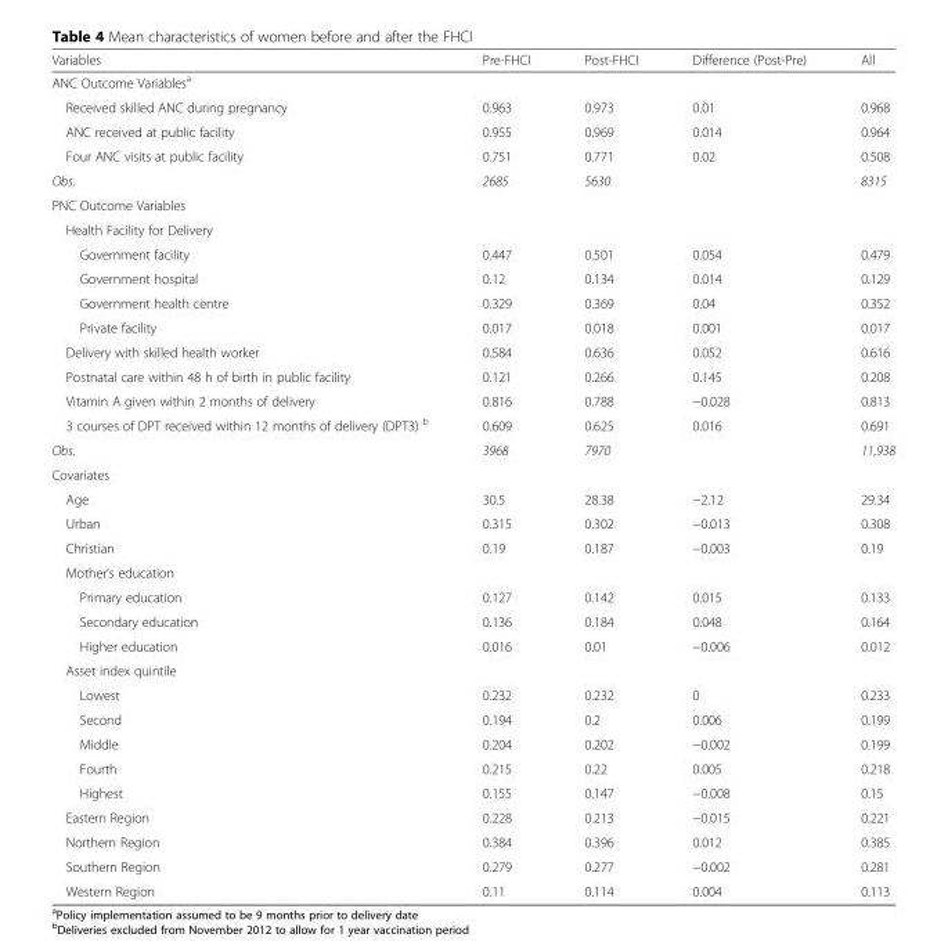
<table><thead><tr><td>Variables</td><td>Pre-FHCI</td><td>Post-FHCI</td><td>Difference (Post-Pre)</td><td>All</td></tr></thead><tbody><tr><td colspan="5">ANC Outcome Variables<sup>a</sup></td></tr><tr><td>Received skilled ANC during pregnancy</td><td>0.963</td><td>0.973</td><td>0.01</td><td>0.968</td></tr><tr><td>ANC received at public facility</td><td>0.955</td><td>0.969</td><td>0.014</td><td>0.964</td></tr><tr><td>Four ANC visits at public facility</td><td>0.751</td><td>0.771</td><td>0.02</td><td>0.508</td></tr><tr><td>Obs.</td><td>2685</td><td>5630</td><td></td><td>8315</td></tr><tr><td colspan="5">PNC Outcome Variables</td></tr><tr><td colspan="5">Health Facility for Delivery</td></tr><tr><td>Government facility</td><td>0.447</td><td>0.501</td><td>0.054</td><td>0.479</td></tr><tr><td>Government hospital</td><td>0.12</td><td>0.134</td><td>0.014</td><td>0.129</td></tr><tr><td>Government health centre</td><td>0.329</td><td>0.369</td><td>0.04</td><td>0.352</td></tr><tr><td>Private facility</td><td>0.017</td><td>0.018</td><td>0.001</td><td>0.017</td></tr><tr><td>Delivery with skilled health worker</td><td>0.584</td><td>0.636</td><td>0.052</td><td>0.616</td></tr><tr><td>Postnatal care within 48 h of birth in public facility</td><td>0.121</td><td>0.266</td><td>0.145</td><td>0.208</td></tr><tr><td>Vitamin A given within 2 months of delivery</td><td>0.816</td><td>0.788</td><td>−0.028</td><td>0.813</td></tr><tr><td>3 courses of DPT received within 12 months of delivery (DPT3) <sup>b</sup></td><td>0.609</td><td>0.625</td><td>0.016</td><td>0.691</td></tr><tr><td>Obs.</td><td>3968</td><td>7970</td><td></td><td>11,938</td></tr><tr><td colspan="5">Covariates</td></tr><tr><td>Age</td><td>30.5</td><td>28.38</td><td>−2.12</td><td>29.34</td></tr><tr><td>Urban</td><td>0.315</td><td>0.302</td><td>−0.013</td><td>0.308</td></tr><tr><td>Christian</td><td>0.19</td><td>0.187</td><td>−0.003</td><td>0.19</td></tr><tr><td colspan="5">Mother’s education</td></tr><tr><td>Primary education</td><td>0.127</td><td>0.142</td><td>0.015</td><td>0.133</td></tr><tr><td>Secondary education</td><td>0.136</td><td>0.184</td><td>0.048</td><td>0.164</td></tr><tr><td>Higher education</td><td>0.016</td><td>0.01</td><td>−0.006</td><td>0.012</td></tr><tr><td colspan="5">Asset index quintile</td></tr><tr><td>Lowest</td><td>0.232</td><td>0.232</td><td>0</td><td>0.233</td></tr><tr><td>Second</td><td>0.194</td><td>0.2</td><td>0.006</td><td>0.199</td></tr><tr><td>Middle</td><td>0.204</td><td>0.202</td><td>−0.002</td><td>0.199</td></tr><tr><td>Fourth</td><td>0.215</td><td>0.22</td><td>0.005</td><td>0.218</td></tr><tr><td>Highest</td><td>0.155</td><td>0.147</td><td>−0.008</td><td>0.15</td></tr><tr><td>Eastern Region</td><td>0.228</td><td>0.213</td><td>−0.015</td><td>0.221</td></tr><tr><td>Northern Region</td><td>0.384</td><td>0.396</td><td>0.012</td><td>0.385</td></tr><tr><td>Southern Region</td><td>0.279</td><td>0.277</td><td>−0.002</td><td>0.281</td></tr><tr><td>Western Region</td><td>0.11</td><td>0.114</td><td>0.004</td><td>0.113</td></tr></tbody></table>